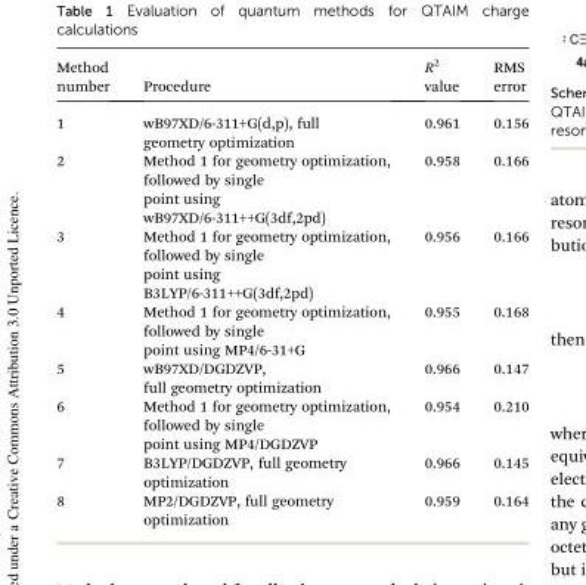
<table><thead><tr><td>Method number</td><td>Procedure</td><td>R<sup>2</sup> value</td><td>RMS error</td></tr></thead><tbody><tr><td>1</td><td>wB97XD/6-311+G(d,p), full geometry optimization</td><td>0.961</td><td>0.156</td></tr><tr><td>2</td><td>Method 1 for geometry optimization, followed by single point using wB97XD/6-311++G(3df,2pd)</td><td>0.958</td><td>0.166</td></tr><tr><td>3</td><td>Method 1 for geometry optimization, followed by single point using B3LYP/6-311++G(3df,2pd)</td><td>0.956</td><td>0.166</td></tr><tr><td>4</td><td>Method 1 for geometry optimization, followed by single point using MP4/6-31+G</td><td>0.955</td><td>0.168</td></tr><tr><td>5</td><td>wB97XD/DGDZVP, full geometry optimization</td><td>0.966</td><td>0.147</td></tr><tr><td>6</td><td>Method 1 for geometry optimization, followed by single point using MP4/DGDZVP</td><td>0.954</td><td>0.210</td></tr><tr><td>7</td><td>B3LYP/DGDZVP, full geometry optimization</td><td>0.966</td><td>0.145</td></tr><tr><td>8</td><td>MP2/DGDZVP, full geometry optimization</td><td>0.959</td><td>0.164</td></tr></tbody></table>